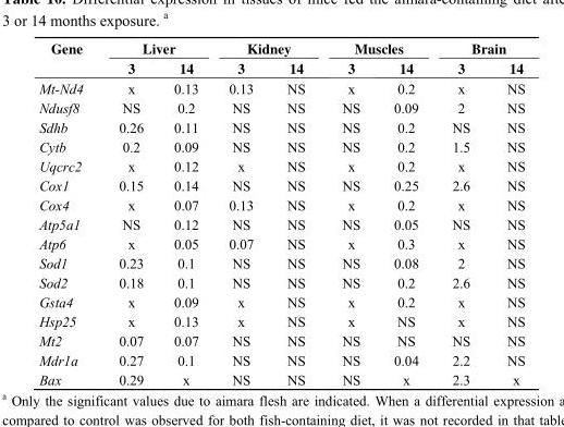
<table><thead><tr><td rowspan="2">Gene</td><td colspan="2">Liver</td><td colspan="2">Kidney</td><td colspan="2">Muscles</td><td colspan="2">Brain</td></tr><tr><td>3</td><td>14</td><td>3</td><td>14</td><td>3</td><td>14</td><td>3</td><td>14</td></tr></thead><tbody><tr><td>Mt-Nd4</td><td>x</td><td>0.13</td><td>0.13</td><td>NS</td><td>x</td><td>0.2</td><td>x</td><td>NS</td></tr><tr><td>Ndusf8</td><td>NS</td><td>0.2</td><td>NS</td><td>NS</td><td>NS</td><td>0.09</td><td>2</td><td>NS</td></tr><tr><td>Sdhb</td><td>0.26</td><td>0.11</td><td>NS</td><td>NS</td><td>NS</td><td>0.2</td><td>NS</td><td>NS</td></tr><tr><td>Cytb</td><td>0.2</td><td>0.09</td><td>NS</td><td>NS</td><td>NS</td><td>0.2</td><td>1.5</td><td>NS</td></tr><tr><td>Uqcrc2</td><td>x</td><td>0.12</td><td>x</td><td>NS</td><td>x</td><td>0.2</td><td>x</td><td>NS</td></tr><tr><td>Cox1</td><td>0.15</td><td>0.14</td><td>NS</td><td>NS</td><td>NS</td><td>0.25</td><td>2.6</td><td>NS</td></tr><tr><td>Cox4</td><td>x</td><td>0.07</td><td>0.13</td><td>NS</td><td>x</td><td>0.2</td><td>x</td><td>NS</td></tr><tr><td>Atp5a1</td><td>NS</td><td>0.12</td><td>NS</td><td>NS</td><td>NS</td><td>0.05</td><td>NS</td><td>NS</td></tr><tr><td>Atp6</td><td>x</td><td>0.05</td><td>0.07</td><td>NS</td><td>x</td><td>0.3</td><td>x</td><td>NS</td></tr><tr><td>Sod1</td><td>0.23</td><td>0.1</td><td>NS</td><td>NS</td><td>NS</td><td>0.08</td><td>2</td><td>NS</td></tr><tr><td>Sod2</td><td>0.18</td><td>0.1</td><td>NS</td><td>NS</td><td>NS</td><td>0.2</td><td>2.6</td><td>NS</td></tr><tr><td>Gsta4</td><td>x</td><td>0.09</td><td>x</td><td>NS</td><td>x</td><td>0.2</td><td>x</td><td>NS</td></tr><tr><td>Hsp25</td><td>x</td><td>0.13</td><td>x</td><td>NS</td><td>x</td><td>NS</td><td>x</td><td>NS</td></tr><tr><td>Mt2</td><td>0.07</td><td>0.07</td><td>NS</td><td>NS</td><td>NS</td><td>NS</td><td>NS</td><td>NS</td></tr><tr><td>Mdr1a</td><td>0.27</td><td>0.1</td><td>NS</td><td>NS</td><td>NS</td><td>0.04</td><td>2.2</td><td>NS</td></tr><tr><td>Bax</td><td>0.29</td><td>x</td><td>NS</td><td>NS</td><td>NS</td><td>x</td><td>2.3</td><td>x</td></tr></tbody></table>